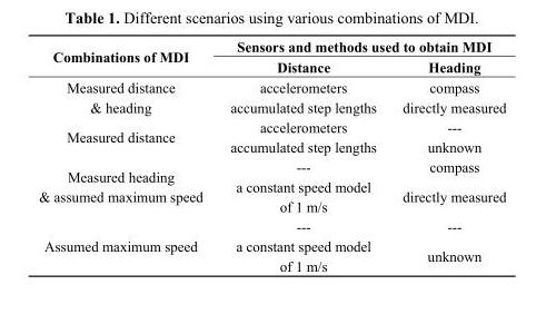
<table><thead><tr><td rowspan="2">Combinations of MDI</td><td colspan="2">Sensors and methods used to obtain MDI</td></tr><tr><td>Distance</td><td>Heading</td></tr></thead><tbody><tr><td rowspan="2">Measured distance &amp; heading</td><td>accelerometers</td><td>compass</td></tr><tr><td>accumulated step lengths</td><td>directly measured</td></tr><tr><td rowspan="2">Measured distance</td><td>accelerometers</td><td>---</td></tr><tr><td>accumulated step lengths</td><td>unknown</td></tr><tr><td rowspan="2">Measured heading &amp; assumed maximum speed</td><td>---</td><td>compass</td></tr><tr><td>a constant speed model of 1 m/s</td><td>directly measured</td></tr><tr><td rowspan="2">Assumed maximum speed</td><td>---</td><td>---</td></tr><tr><td>a constant speed model of 1 m/s</td><td>unknown</td></tr></tbody></table>